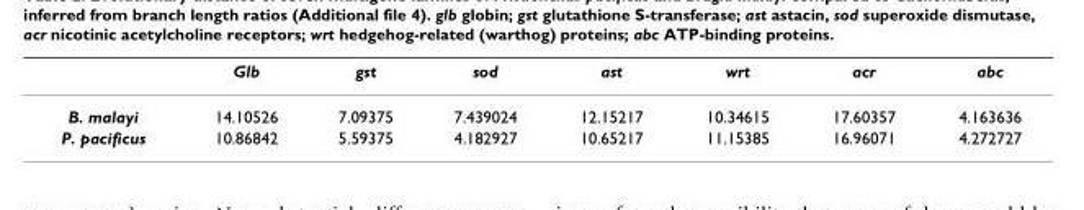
<table><thead><tr><td></td><td>Glb</td><td>gst</td><td>sod</td><td>ast</td><td>wrt</td><td>acr</td><td>abc</td></tr></thead><tbody><tr><td>B. malayi</td><td>14.10526</td><td>7.09375</td><td>7.439024</td><td>12.15217</td><td>10.34615</td><td>17.60357</td><td>4.163636</td></tr><tr><td>P. pacificus</td><td>10.86842</td><td>5.59375</td><td>4.182927</td><td>10.65217</td><td>11.15385</td><td>16.96071</td><td>4.272727</td></tr></tbody></table>